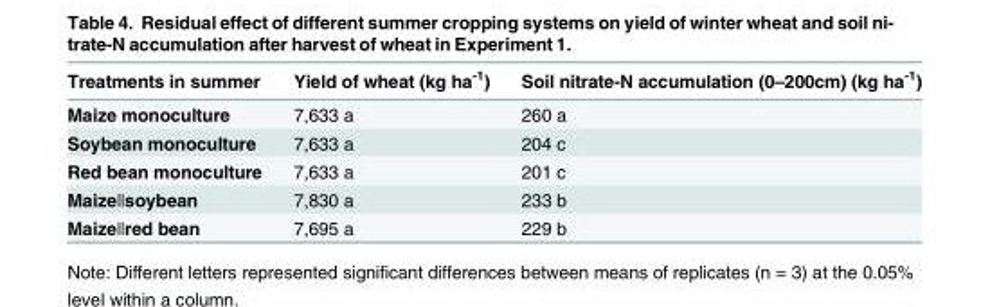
<table><thead><tr><td>Treatments in summer</td><td>Yield of wheat (kg ha<sup>-1</sup>)</td><td>Soil nitrate-N accumulation (0–200cm) (kg ha<sup>-1</sup>)</td></tr></thead><tbody><tr><td>Maize monoculture</td><td>7,633 a</td><td>260 a</td></tr><tr><td>Soybean monoculture</td><td>7,633 a</td><td>204 c</td></tr><tr><td>Red bean monoculture</td><td>7,633 a</td><td>201 c</td></tr><tr><td>Maizeǁsoybean</td><td>7,830 a</td><td>233 b</td></tr><tr><td>Maizeǁred bean</td><td>7,695 a</td><td>229 b</td></tr></tbody></table>